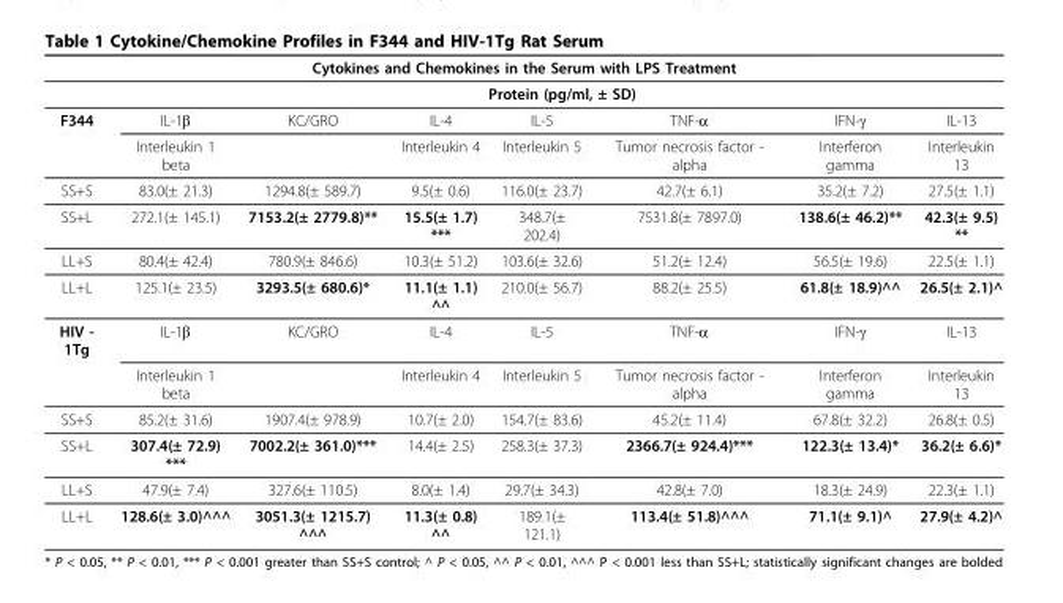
<table><thead><tr><td colspan="8">Cytokines and Chemokines in the Serum with LPS Treatment</td></tr><tr><td rowspan="2">F344</td><td colspan="7">Protein (pg/ml, ± SD)</td></tr><tr><td>IL-1β</td><td>KC/GRO</td><td>IL-4</td><td>IL-5</td><td>TNF-α</td><td>IFN-γ</td><td>IL-13</td></tr></thead><tbody><tr><td></td><td>Interleukin 1 beta</td><td></td><td>Interleukin 4</td><td>Interleukin 5</td><td>Tumor necrosis factor - alpha</td><td>Interferon gamma</td><td>Interleukin 13</td></tr><tr><td>SS+S</td><td>83.0(± 21.3)</td><td>1294.8(± 589.7)</td><td>9.5(± 0.6)</td><td>116.0(± 23.7)</td><td>42.7(± 6.1)</td><td>35.2(± 7.2)</td><td>27.5(± 1.1)</td></tr><tr><td>SS+L</td><td>272.1(± 145.1)</td><td>7153.2(± 2779.8)**</td><td>15.5(± 1.7) ***</td><td>348.7(± 202.4)</td><td>7531.8(± 7897.0)</td><td>138.6(± 46.2)**</td><td>42.3(± 9.5) **</td></tr><tr><td>LL+S</td><td>80.4(± 42.4)</td><td>780.9(± 846.6)</td><td>10.3(± 51.2)</td><td>103.6(± 32.6)</td><td>51.2(± 12.4)</td><td>56.5(± 19.6)</td><td>22.5(± 1.1)</td></tr><tr><td>LL+L</td><td>125.1(± 23.5)</td><td>3293.5(± 680.6)*</td><td>11.1(± 1.1) ^^</td><td>210.0(± 56.7)</td><td>88.2(± 25.5)</td><td>61.8(± 18.9)^^</td><td>26.5(± 2.1)^</td></tr><tr><td rowspan="2">HIV - 1Tg</td><td>IL-1β</td><td>KC/GRO</td><td>IL-4</td><td>IL-5</td><td>TNF-α</td><td>IFN-γ</td><td>IL-13</td></tr><tr><td>Interleukin 1 beta</td><td></td><td>Interleukin 4</td><td>Interleukin 5</td><td>Tumor necrosis factor - alpha</td><td>Interferon gamma</td><td>Interleukin 13</td></tr><tr><td>SS+S</td><td>85.2(± 31.6)</td><td>1907.4(± 978.9)</td><td>10.7(± 2.0)</td><td>154.7(± 83.6)</td><td>45.2(± 11.4)</td><td>67.8(± 32.2)</td><td>26.8(± 0.5)</td></tr><tr><td>SS+L</td><td>307.4(± 72.9) ***</td><td>7002.2(± 361.0)***</td><td>14.4(± 2.5)</td><td>258.3(± 37.3)</td><td>2366.7(± 924.4)***</td><td>122.3(± 13.4)*</td><td>36.2(± 6.6)*</td></tr><tr><td>LL+S</td><td>47.9(± 7.4)</td><td>327.6(± 110.5)</td><td>8.0(± 1.4)</td><td>29.7(± 34.3)</td><td>42.8(± 7.0)</td><td>18.3(± 24.9)</td><td>22.3(± 1.1)</td></tr><tr><td>LL+L</td><td>128.6(± 3.0)^^^</td><td>3051.3(± 1215.7) ^^^</td><td>11.3(± 0.8) ^^</td><td>189.1(± 121.1)</td><td>113.4(± 51.8)^^^</td><td>71.1(± 9.1)^</td><td>27.9(± 4.2)^</td></tr></tbody></table>